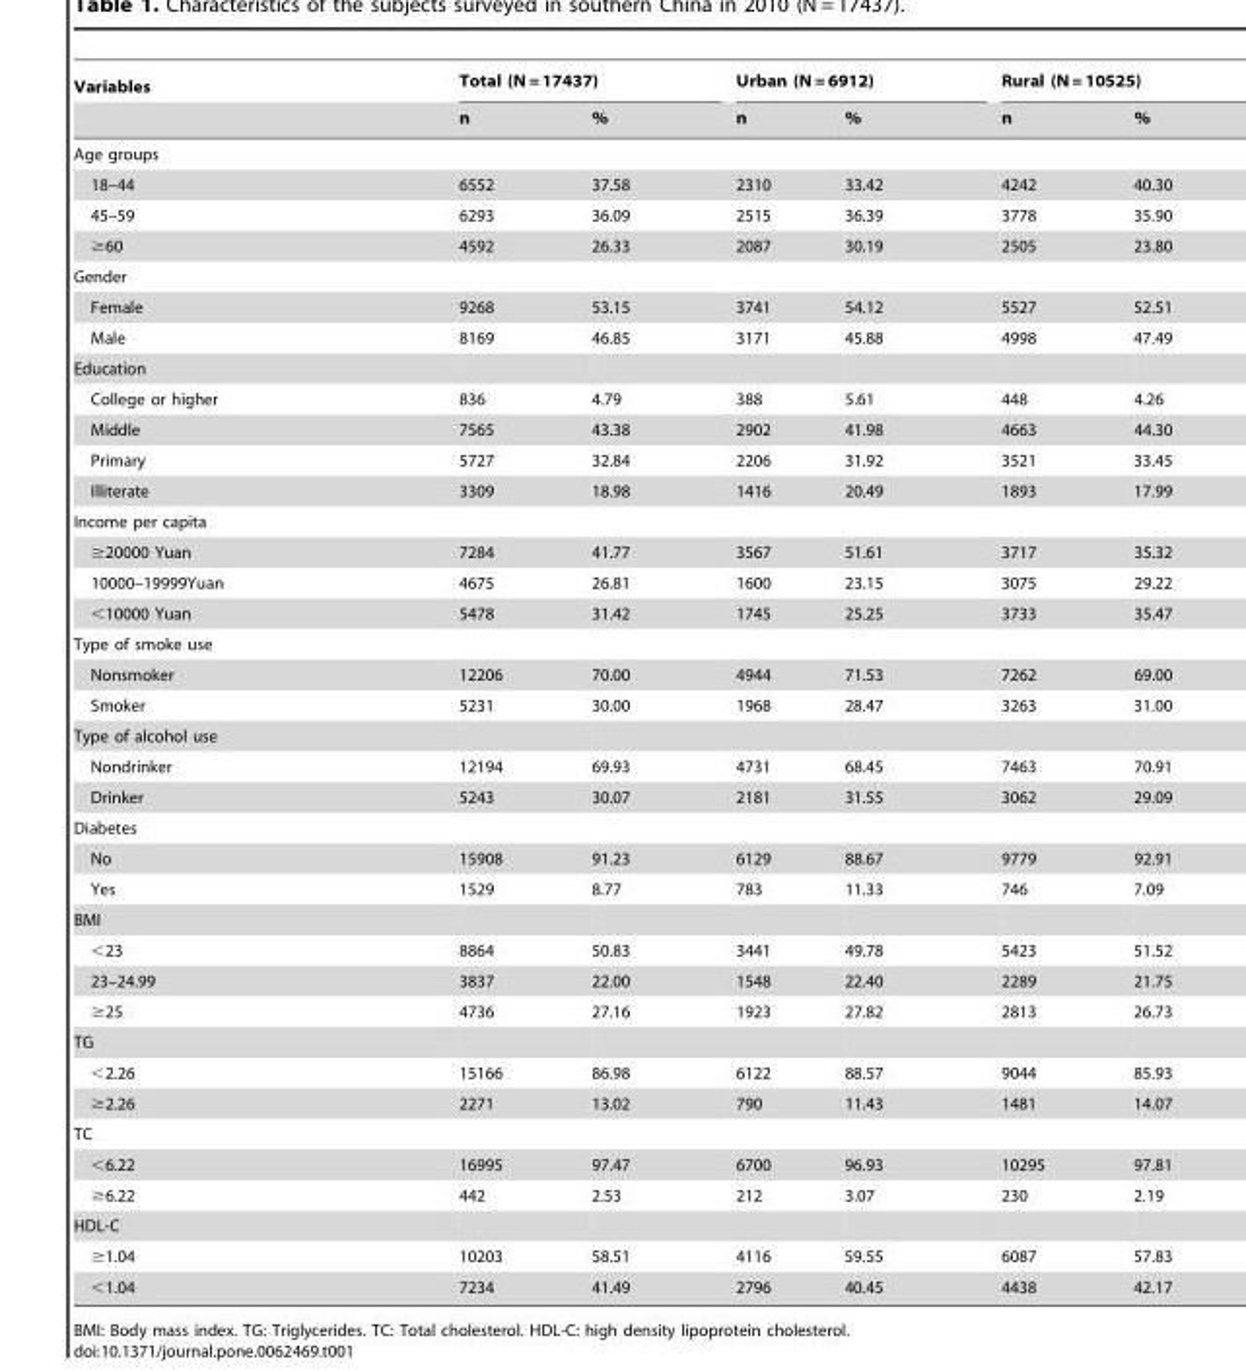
<table><thead><tr><td rowspan="2">Variables</td><td colspan="2">Total (N = 17437)</td><td colspan="2">Urban (N = 6912)</td><td colspan="2">Rural (N = 10525)</td></tr><tr><td>n</td><td>%</td><td>n</td><td>%</td><td>n</td><td>%</td></tr></thead><tbody><tr><td colspan="7">Age groups</td></tr><tr><td>18–44</td><td>6552</td><td>37.58</td><td>2310</td><td>33.42</td><td>4242</td><td>40.30</td></tr><tr><td>45–59</td><td>6293</td><td>36.09</td><td>2515</td><td>36.39</td><td>3778</td><td>35.90</td></tr><tr><td>≥60</td><td>4592</td><td>26.33</td><td>2087</td><td>30.19</td><td>2505</td><td>23.80</td></tr><tr><td colspan="7">Gender</td></tr><tr><td>Female</td><td>9268</td><td>53.15</td><td>3741</td><td>54.12</td><td>5527</td><td>52.51</td></tr><tr><td>Male</td><td>8169</td><td>46.85</td><td>3171</td><td>45.88</td><td>4998</td><td>47.49</td></tr><tr><td colspan="7">Education</td></tr><tr><td>College or higher</td><td>836</td><td>4.79</td><td>388</td><td>5.61</td><td>448</td><td>4.26</td></tr><tr><td>Middle</td><td>7565</td><td>43.38</td><td>2902</td><td>41.98</td><td>4663</td><td>44.30</td></tr><tr><td>Primary</td><td>5727</td><td>32.84</td><td>2206</td><td>31.92</td><td>3521</td><td>33.45</td></tr><tr><td>Illiterate</td><td>3309</td><td>18.98</td><td>1416</td><td>20.49</td><td>1893</td><td>17.99</td></tr><tr><td colspan="7">Income per capita</td></tr><tr><td>≥20000 Yuan</td><td>7284</td><td>41.77</td><td>3567</td><td>51.61</td><td>3717</td><td>35.32</td></tr><tr><td>10000–19999Yuan</td><td>4675</td><td>26.81</td><td>1600</td><td>23.15</td><td>3075</td><td>29.22</td></tr><tr><td>&lt;10000 Yuan</td><td>5478</td><td>31.42</td><td>1745</td><td>25.25</td><td>3733</td><td>35.47</td></tr><tr><td colspan="7">Type of smoke use</td></tr><tr><td>Nonsmoker</td><td>12206</td><td>70.00</td><td>4944</td><td>71.53</td><td>7262</td><td>69.00</td></tr><tr><td>Smoker</td><td>5231</td><td>30.00</td><td>1968</td><td>28.47</td><td>3263</td><td>31.00</td></tr><tr><td colspan="7">Type of alcohol use</td></tr><tr><td>Nondrinker</td><td>12194</td><td>69.93</td><td>4731</td><td>68.45</td><td>7463</td><td>70.91</td></tr><tr><td>Drinker</td><td>5243</td><td>30.07</td><td>2181</td><td>31.55</td><td>3062</td><td>29.09</td></tr><tr><td colspan="7">Diabetes</td></tr><tr><td>No</td><td>15908</td><td>91.23</td><td>6129</td><td>88.67</td><td>9779</td><td>92.91</td></tr><tr><td>Yes</td><td>1529</td><td>8.77</td><td>783</td><td>11.33</td><td>746</td><td>7.09</td></tr><tr><td colspan="7">BMI</td></tr><tr><td>&lt;23</td><td>8864</td><td>50.83</td><td>3441</td><td>49.78</td><td>5423</td><td>51.52</td></tr><tr><td>23–24.99</td><td>3837</td><td>22.00</td><td>1548</td><td>22.40</td><td>2289</td><td>21.75</td></tr><tr><td>≥25</td><td>4736</td><td>27.16</td><td>1923</td><td>27.82</td><td>2813</td><td>26.73</td></tr><tr><td colspan="7">TG</td></tr><tr><td>&lt;2.26</td><td>15166</td><td>86.98</td><td>6122</td><td>88.57</td><td>9044</td><td>85.93</td></tr><tr><td>≥2.26</td><td>2271</td><td>13.02</td><td>790</td><td>11.43</td><td>1481</td><td>14.07</td></tr><tr><td colspan="7">TC</td></tr><tr><td>&lt;6.22</td><td>16995</td><td>97.47</td><td>6700</td><td>96.93</td><td>10295</td><td>97.81</td></tr><tr><td>≥6.22</td><td>442</td><td>2.53</td><td>212</td><td>3.07</td><td>230</td><td>2.19</td></tr><tr><td colspan="7">HDL-C</td></tr><tr><td>≥1.04</td><td>10203</td><td>58.51</td><td>4116</td><td>59.55</td><td>6087</td><td>57.83</td></tr><tr><td>&lt;1.04</td><td>7234</td><td>41.49</td><td>2796</td><td>40.45</td><td>4438</td><td>42.17</td></tr></tbody></table>